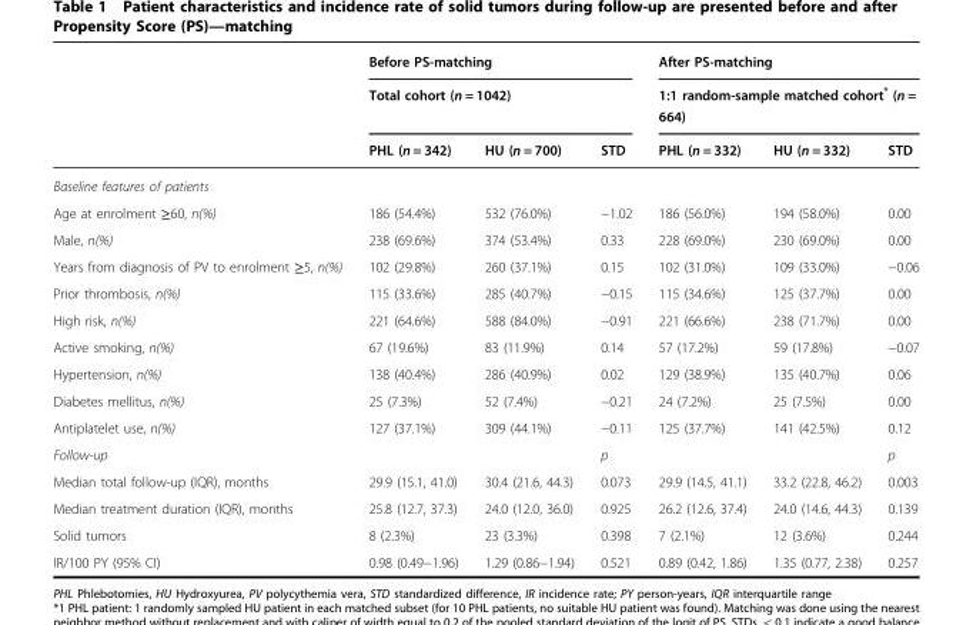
<table><thead><tr><td rowspan="3"></td><td rowspan="2" colspan="3">Before PS-matching Total cohort (n = 1042)</td><td rowspan="2" colspan="3">After PS-matching 1:1 random-sample matched cohort* (n = 664)</td></tr><tr></tr><tr><td>PHL (n = 342)</td><td>HU (n = 700)</td><td>STD</td><td>PHL (n = 332)</td><td>HU (n = 332)</td><td>STD</td></tr></thead><tbody><tr><td colspan="7">Baseline features of patients</td></tr><tr><td>Age at enrolment ≥60, n(%)</td><td>186 (54.4%)</td><td>532 (76.0%)</td><td>−1.02</td><td>186 (56.0%)</td><td>194 (58.0%)</td><td>0.00</td></tr><tr><td>Male, n(%)</td><td>238 (69.6%)</td><td>374 (53.4%)</td><td>0.33</td><td>228 (69.0%)</td><td>230 (69.0%)</td><td>0.00</td></tr><tr><td>Years from diagnosis of PV to enrolment ≥5, n(%)</td><td>102 (29.8%)</td><td>260 (37.1%)</td><td>0.15</td><td>102 (31.0%)</td><td>109 (33.0%)</td><td>−0.06</td></tr><tr><td>Prior thrombosis, n(%)</td><td>115 (33.6%)</td><td>285 (40.7%)</td><td>−0.15</td><td>115 (34.6%)</td><td>125 (37.7%)</td><td>0.00</td></tr><tr><td>High risk, n(%)</td><td>221 (64.6%)</td><td>588 (84.0%)</td><td>−0.91</td><td>221 (66.6%)</td><td>238 (71.7%)</td><td>0.00</td></tr><tr><td>Active smoking, n(%)</td><td>67 (19.6%)</td><td>83 (11.9%)</td><td>0.14</td><td>57 (17.2%)</td><td>59 (17.8%)</td><td>−0.07</td></tr><tr><td>Hypertension, n(%)</td><td>138 (40.4%)</td><td>286 (40.9%)</td><td>0.02</td><td>129 (38.9%)</td><td>135 (40.7%)</td><td>0.06</td></tr><tr><td>Diabetes mellitus, n(%)</td><td>25 (7.3%)</td><td>52 (7.4%)</td><td>−0.21</td><td>24 (7.2%)</td><td>25 (7.5%)</td><td>0.00</td></tr><tr><td>Antiplatelet use, n(%)</td><td>127 (37.1%)</td><td>309 (44.1%)</td><td>−0.11</td><td>125 (37.7%)</td><td>141 (42.5%)</td><td>0.12</td></tr><tr><td>Follow-up</td><td></td><td></td><td>p</td><td></td><td></td><td>p</td></tr><tr><td>Median total follow-up (IQR), months</td><td>29.9 (15.1, 41.0)</td><td>30.4 (21.6, 44.3)</td><td>0.073</td><td>29.9 (14.5, 41.1)</td><td>33.2 (22.8, 46.2)</td><td>0.003</td></tr><tr><td>Median treatment duration (IQR), months</td><td>25.8 (12.7, 37.3)</td><td>24.0 (12.0, 36.0)</td><td>0.925</td><td>26.2 (12.6, 37.4)</td><td>24.0 (14.6, 44.3)</td><td>0.139</td></tr><tr><td>Solid tumors</td><td>8 (2.3%)</td><td>23 (3.3%)</td><td>0.398</td><td>7 (2.1%)</td><td>12 (3.6%)</td><td>0.244</td></tr><tr><td>IR/100 PY (95% CI)</td><td>0.98 (0.49−1.96)</td><td>1.29 (0.86−1.94)</td><td>0.521</td><td>0.89 (0.42, 1.86)</td><td>1.35 (0.77, 2.38)</td><td>0.257</td></tr></tbody></table>